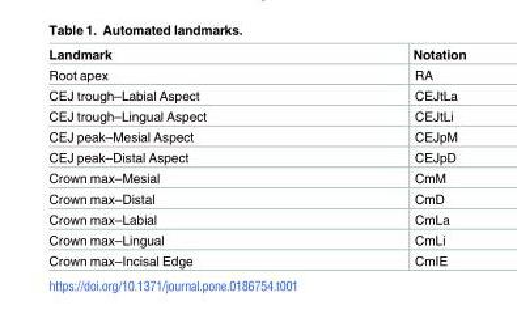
<table><thead><tr><td>Landmark</td><td>Notation</td></tr></thead><tbody><tr><td>Root apex</td><td>RA</td></tr><tr><td>CEJ trough–Labial Aspect</td><td>CEJtLa</td></tr><tr><td>CEJ trough–Lingual Aspect</td><td>CEJtLi</td></tr><tr><td>CEJ peak–Mesial Aspect</td><td>CEJpM</td></tr><tr><td>CEJ peak–Distal Aspect</td><td>CEJpD</td></tr><tr><td>Crown max–Mesial</td><td>CmM</td></tr><tr><td>Crown max–Distal</td><td>CmD</td></tr><tr><td>Crown max–Labial</td><td>CmLa</td></tr><tr><td>Crown max–Lingual</td><td>CmLi</td></tr><tr><td>Crown max–Incisal Edge</td><td>CmIE</td></tr></tbody></table>